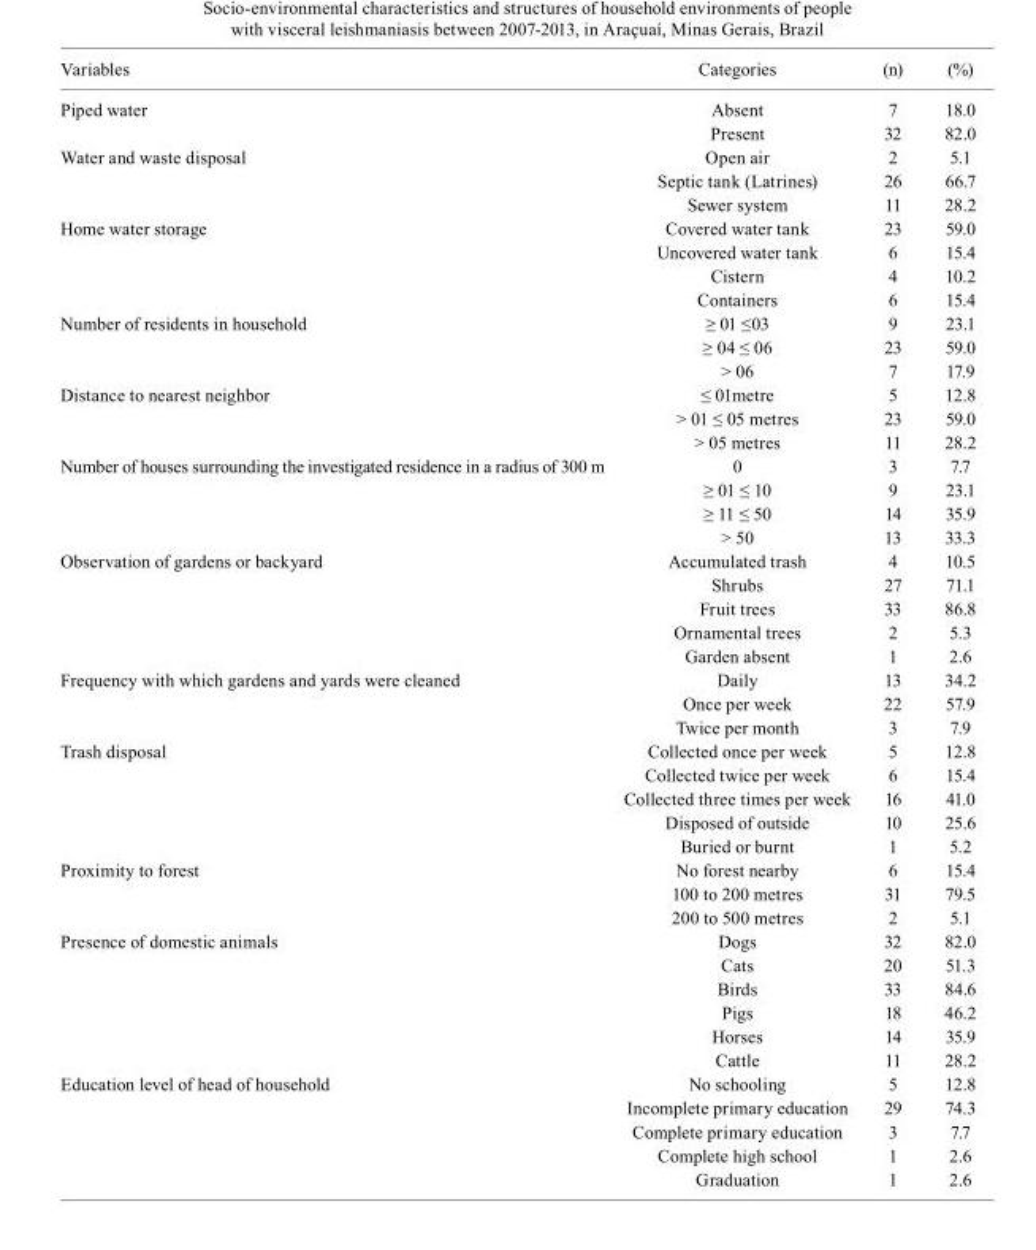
<table><thead><tr><td>Variables</td><td>Categories</td><td>(n)</td><td>(%)</td></tr></thead><tbody><tr><td rowspan="2">Piped water</td><td>Absent</td><td>7</td><td>18.0</td></tr><tr><td>Present</td><td>32</td><td>82.0</td></tr><tr><td rowspan="3">Water and waste disposal</td><td>Open air</td><td>2</td><td>5.1</td></tr><tr><td>Septic tank (Latrines)</td><td>26</td><td>66.7</td></tr><tr><td>Sewer system</td><td>11</td><td>28.2</td></tr><tr><td rowspan="4">Home water storage</td><td>Covered water tank</td><td>23</td><td>59.0</td></tr><tr><td>Uncovered water tank</td><td>6</td><td>15.4</td></tr><tr><td>Cistern</td><td>4</td><td>10.2</td></tr><tr><td>Containers</td><td>6</td><td>15.4</td></tr><tr><td rowspan="3">Number of residents in household</td><td>≥ 01 ≤03</td><td>9</td><td>23.1</td></tr><tr><td>≥ 04 ≤ 06</td><td>23</td><td>59.0</td></tr><tr><td>&gt; 06</td><td>7</td><td>17.9</td></tr><tr><td rowspan="3">Distance to nearest neighbor</td><td>≤ 01metre</td><td>5</td><td>12.8</td></tr><tr><td>&gt; 01 ≤ 05 metres</td><td>23</td><td>59.0</td></tr><tr><td>&gt; 05 metres</td><td>11</td><td>28.2</td></tr><tr><td rowspan="4">Number of houses surrounding the investigated residence in a radius of 300 m</td><td>0</td><td>3</td><td>7.7</td></tr><tr><td>≥ 01 ≤ 10</td><td>9</td><td>23.1</td></tr><tr><td>≥ 11 ≤ 50</td><td>14</td><td>35.9</td></tr><tr><td>&gt; 50</td><td>13</td><td>33.3</td></tr><tr><td rowspan="5">Observation of gardens or backyard</td><td>Accumulated trash</td><td>4</td><td>10.5</td></tr><tr><td>Shrubs</td><td>27</td><td>71.1</td></tr><tr><td>Fruit trees</td><td>33</td><td>86.8</td></tr><tr><td>Ornamental trees</td><td>2</td><td>5.3</td></tr><tr><td>Garden absent</td><td>1</td><td>2.6</td></tr><tr><td rowspan="3">Frequency with which gardens and yards were cleaned</td><td>Daily</td><td>13</td><td>34.2</td></tr><tr><td>Once per week</td><td>22</td><td>57.9</td></tr><tr><td>Twice per month</td><td>3</td><td>7.9</td></tr><tr><td rowspan="5">Trash disposal</td><td>Collected once per week</td><td>5</td><td>12.8</td></tr><tr><td>Collected twice per week</td><td>6</td><td>15.4</td></tr><tr><td>Collected three times per week</td><td>16</td><td>41.0</td></tr><tr><td>Disposed of outside</td><td>10</td><td>25.6</td></tr><tr><td>Buried or burnt</td><td>1</td><td>5.2</td></tr><tr><td rowspan="3">Proximity to forest</td><td>No forest nearby</td><td>6</td><td>15.4</td></tr><tr><td>100 to 200 metres</td><td>31</td><td>79.5</td></tr><tr><td>200 to 500 metres</td><td>2</td><td>5.1</td></tr><tr><td rowspan="6">Presence of domestic animals</td><td>Dogs</td><td>32</td><td>82.0</td></tr><tr><td>Cats</td><td>20</td><td>51.3</td></tr><tr><td>Birds</td><td>33</td><td>84.6</td></tr><tr><td>Pigs</td><td>18</td><td>46.2</td></tr><tr><td>Horses</td><td>14</td><td>35.9</td></tr><tr><td>Cattle</td><td>11</td><td>28.2</td></tr><tr><td rowspan="5">Education level of head of household</td><td>No schooling</td><td>5</td><td>12.8</td></tr><tr><td>Incomplete primary education</td><td>29</td><td>74.3</td></tr><tr><td>Complete primary education</td><td>3</td><td>7.7</td></tr><tr><td>Complete high school</td><td>1</td><td>2.6</td></tr><tr><td>Graduation</td><td>1</td><td>2.6</td></tr></tbody></table>